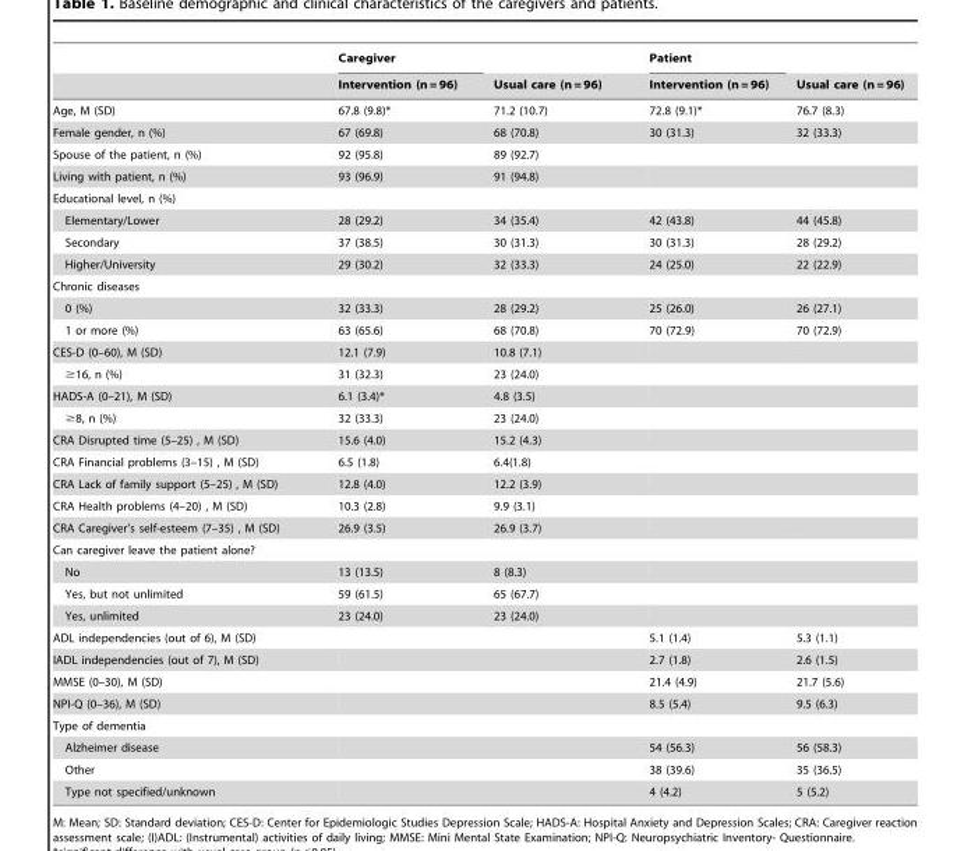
<table><thead><tr><td rowspan="2"></td><td rowspan="2">Caregiver Intervention (n = 96)</td><td rowspan="2">Usual care (n = 96)</td><td rowspan="2">Patient Intervention (n = 96)</td><td rowspan="2">Usual care (n = 96)</td></tr><tr></tr></thead><tbody><tr><td>Age, M (SD)</td><td>67.8 (9.8)*</td><td>71.2 (10.7)</td><td>72.8 (9.1)*</td><td>76.7 (8.3)</td></tr><tr><td>Female gender, n (%)</td><td>67 (69.8)</td><td>68 (70.8)</td><td>30 (31.3)</td><td>32 (33.3)</td></tr><tr><td>Spouse of the patient, n (%)</td><td>92 (95.8)</td><td>89 (92.7)</td><td></td><td></td></tr><tr><td>Living with patient, n (%)</td><td>93 (96.9)</td><td>91 (94.8)</td><td></td><td></td></tr><tr><td colspan="5">Educational level, n (%)</td></tr><tr><td>Elementary/Lower</td><td>28 (29.2)</td><td>34 (35.4)</td><td>42 (43.8)</td><td>44 (45.8)</td></tr><tr><td>Secondary</td><td>37 (38.5)</td><td>30 (31.3)</td><td>30 (31.3)</td><td>28 (29.2)</td></tr><tr><td>Higher/University</td><td>29 (30.2)</td><td>32 (33.3)</td><td>24 (25.0)</td><td>22 (22.9)</td></tr><tr><td colspan="5">Chronic diseases</td></tr><tr><td>0 (%)</td><td>32 (33.3)</td><td>28 (29.2)</td><td>25 (26.0)</td><td>26 (27.1)</td></tr><tr><td>1 or more (%)</td><td>63 (65.6)</td><td>68 (70.8)</td><td>70 (72.9)</td><td>70 (72.9)</td></tr><tr><td>CES-D (0–60), M (SD)</td><td>12.1 (7.9)</td><td>10.8 (7.1)</td><td></td><td></td></tr><tr><td>≥16, n (%)</td><td>31 (32.3)</td><td>23 (24.0)</td><td></td><td></td></tr><tr><td>HADS-A (0–21), M (SD)</td><td>6.1 (3.4)*</td><td>4.8 (3.5)</td><td></td><td></td></tr><tr><td>≥8, n (%)</td><td>32 (33.3)</td><td>23 (24.0)</td><td></td><td></td></tr><tr><td>CRA Disrupted time (5–25) , M (SD)</td><td>15.6 (4.0)</td><td>15.2 (4.3)</td><td></td><td></td></tr><tr><td>CRA Financial problems (3–15) , M (SD)</td><td>6.5 (1.8)</td><td>6.4(1.8)</td><td></td><td></td></tr><tr><td>CRA Lack of family support (5–25) , M (SD)</td><td>12.8 (4.0)</td><td>12.2 (3.9)</td><td></td><td></td></tr><tr><td>CRA Health problems (4–20) , M (SD)</td><td>10.3 (2.8)</td><td>9.9 (3.1)</td><td></td><td></td></tr><tr><td>CRA Caregiver’s self-esteem (7–35) , M (SD)</td><td>26.9 (3.5)</td><td>26.9 (3.7)</td><td></td><td></td></tr><tr><td colspan="5">Can caregiver leave the patient alone?</td></tr><tr><td>No</td><td>13 (13.5)</td><td>8 (8.3)</td><td></td><td></td></tr><tr><td>Yes, but not unlimited</td><td>59 (61.5)</td><td>65 (67.7)</td><td></td><td></td></tr><tr><td>Yes, unlimited</td><td>23 (24.0)</td><td>23 (24.0)</td><td></td><td></td></tr><tr><td>ADL independencies (out of 6), M (SD)</td><td></td><td></td><td>5.1 (1.4)</td><td>5.3 (1.1)</td></tr><tr><td>IADL independencies (out of 7), M (SD)</td><td></td><td></td><td>2.7 (1.8)</td><td>2.6 (1.5)</td></tr><tr><td>MMSE (0–30), M (SD)</td><td></td><td></td><td>21.4 (4.9)</td><td>21.7 (5.6)</td></tr><tr><td>NPI-Q (0–36), M (SD)</td><td></td><td></td><td>8.5 (5.4)</td><td>9.5 (6.3)</td></tr><tr><td colspan="5">Type of dementia</td></tr><tr><td>Alzheimer disease</td><td></td><td></td><td>54 (56.3)</td><td>56 (58.3)</td></tr><tr><td>Other</td><td></td><td></td><td>38 (39.6)</td><td>35 (36.5)</td></tr><tr><td>Type not specified/unknown</td><td></td><td></td><td>4 (4.2)</td><td>5 (5.2)</td></tr></tbody></table>